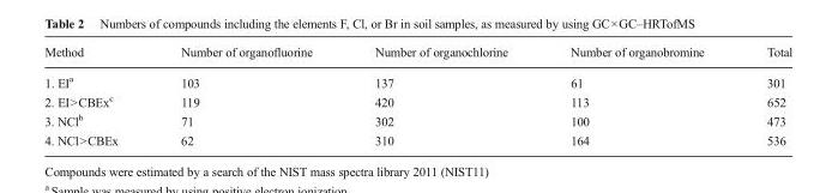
<table><thead><tr><td>Method</td><td>Number of organofluorine</td><td>Number of organochlorine</td><td>Number of organobromine</td><td>Total</td></tr></thead><tbody><tr><td>1. EI<sup>a</sup></td><td>103</td><td>137</td><td>61</td><td>301</td></tr><tr><td>2. EI&gt;CBEx<sup>c</sup></td><td>119</td><td>420</td><td>113</td><td>652</td></tr><tr><td>3. NCl<sup>b</sup></td><td>71</td><td>302</td><td>100</td><td>473</td></tr><tr><td>4. NCl&gt;CBEx</td><td>62</td><td>310</td><td>164</td><td>536</td></tr></tbody></table>